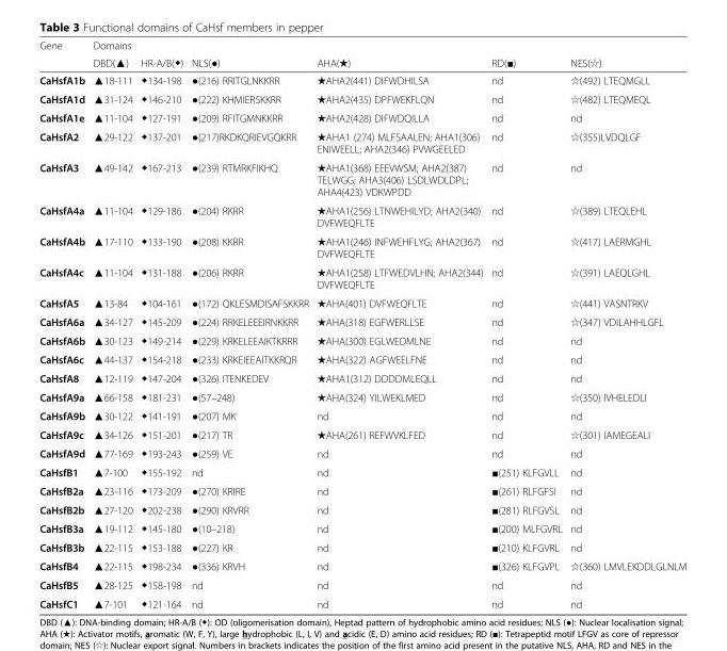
<table><thead><tr><td rowspan="2">Gene</td><td colspan="6">Domains</td></tr><tr><td>DBD(▲)</td><td>HR-A/B(◆)</td><td>NLS(●)</td><td>AHA(★)</td><td>RD(■)</td><td>NES(✩)</td></tr></thead><tbody><tr><td>CaHsfA1b</td><td>▲18-111</td><td>◆134-198</td><td>●(216) RRITGLNKKRR</td><td>★AHA2(441) DIFWDHILSA</td><td>nd</td><td>✩(492) LTEQMGLL</td></tr><tr><td>CaHsfA1d</td><td>▲31-124</td><td>◆146-210</td><td>●(222) KHMIERSKKRR</td><td>★AHA2(435) DPFWEKFLQN</td><td>nd</td><td>✩(482) LTEQMEQL</td></tr><tr><td>CaHsfA1e</td><td>▲11-104</td><td>◆127-191</td><td>●(209) RFITGMNKKRR</td><td>★AHA2(428) DIFWDQILLA</td><td>nd</td><td>nd</td></tr><tr><td>CaHsfA2</td><td>▲29-122</td><td>◆137-201</td><td>●(217)RKDKQRIEVGQKRR</td><td>★AHA1 (274) MLFSAALEN; AHA1(306) ENIWEELL; AHA2(346) PVWGEELED</td><td>nd</td><td>✩(355)LVDQLGF</td></tr><tr><td>CaHsfA3</td><td>▲49-142</td><td>◆167-213</td><td>●(239) RTMRKFIKHQ</td><td>★AHA1(368) EEEVWSM; AHA2(387) TELWGG; AHA3(406) LSDLWDLDPL; AHA4(423) VDKWPDD</td><td>nd</td><td>nd</td></tr><tr><td>CaHsfA4a</td><td>▲11-104</td><td>◆129-186</td><td>●(204) RKRR</td><td>★AHA1(256) LTNWEHILYD; AHA2(340) DVFWEQFLTE</td><td>nd</td><td>✩(389) LTEQLEHL</td></tr><tr><td>CaHsfA4b</td><td>▲17-110</td><td>◆133-190</td><td>●(208) KKRR</td><td>★AHA1(246) INFWEHFLYG; AHA2(367) DVFWEQFLTE</td><td>nd</td><td>✩(417) LAERMGHL</td></tr><tr><td>CaHsfA4c</td><td>▲11-104</td><td>◆131-188</td><td>●(206) RKRR</td><td>★AHA1(258) LTFWEDVLHN; AHA2(344) DVFWEQFLTE</td><td>nd</td><td>✩(391) LAEQLGHL</td></tr><tr><td>CaHsfA5</td><td>▲13-84</td><td>◆104-161</td><td>●(172) QKLESMDISAFSKKRR</td><td>★AHA(401) DVFWEQFLTE</td><td>nd</td><td>✩(441) VASNTRKV</td></tr><tr><td>CaHsfA6a</td><td>▲34-127</td><td>◆145-209</td><td>●(224) RRKELEEEIRNKKRR</td><td>★AHA(318) EGFWERLLSE</td><td>nd</td><td>✩(347) VDILAHHLGFL</td></tr><tr><td>CaHsfA6b</td><td>▲30-123</td><td>◆149-214</td><td>●(229) KRKELEEAIKTKRRR</td><td>★AHA(300) EGLWEDMLNE</td><td>nd</td><td>nd</td></tr><tr><td>CaHsfA6c</td><td>▲44-137</td><td>◆154-218</td><td>●(233) KRKEIEEAITKKRQR</td><td>★AHA(322) AGFWEELFNE</td><td>nd</td><td>nd</td></tr><tr><td>CaHsfA8</td><td>▲12-119</td><td>◆147-204</td><td>●(326) ITENKEDEV</td><td>★AHA1(312) DDDDMLEQLL</td><td>nd</td><td>nd</td></tr><tr><td>CaHsfA9a</td><td>▲66-158</td><td>◆181-231</td><td>●(57–248)</td><td>★AHA(324) YILWEKLMED</td><td>nd</td><td>✩(350) IVHELEDLI</td></tr><tr><td>CaHsfA9b</td><td>▲30-122</td><td>◆141-191</td><td>●(207) MK</td><td>nd</td><td>nd</td><td>nd</td></tr><tr><td>CaHsfA9c</td><td>▲34-126</td><td>◆151-201</td><td>●(217) TR</td><td>★AHA(261) REFWVKLFED</td><td>nd</td><td>✩(301) IAMEGEALI</td></tr><tr><td>CaHsfA9d</td><td>▲77-169</td><td>◆193-243</td><td>●(259) VE</td><td>nd</td><td>nd</td><td>nd</td></tr><tr><td>CaHsfB1</td><td>▲7-100</td><td>◆155-192</td><td>nd</td><td>nd</td><td>■(251) KLFGVLL</td><td>nd</td></tr><tr><td>CaHsfB2a</td><td>▲23-116</td><td>◆173-209</td><td>●(270) KRIRE</td><td>nd</td><td>■(261) RLFGFSI</td><td>nd</td></tr><tr><td>CaHsfB2b</td><td>▲27-120</td><td>◆202-238</td><td>●(290) KRVRR</td><td>nd</td><td>■(281) RLFGVSL</td><td>nd</td></tr><tr><td>CaHsfB3a</td><td>▲19-112</td><td>◆145-180</td><td>●(10–218)</td><td>nd</td><td>■(200) MLFGVRL</td><td>nd</td></tr><tr><td>CaHsfB3b</td><td>▲22-115</td><td>◆153-188</td><td>●(227) KR</td><td>nd</td><td>■(210) KLFGVRL</td><td>nd</td></tr><tr><td>CaHsfB4</td><td>▲22-115</td><td>◆198-234</td><td>●(336) KRVH</td><td>nd</td><td>■(326) KLFGVPL</td><td>✩(360) LMVLEKDDLGLNLM</td></tr><tr><td>CaHsfB5</td><td>▲28-125</td><td>◆158-198</td><td>nd</td><td>nd</td><td>nd</td><td>nd</td></tr><tr><td>CaHsfC1</td><td>▲7-101</td><td>◆121-164</td><td>nd</td><td>nd</td><td>nd</td><td>nd</td></tr></tbody></table>